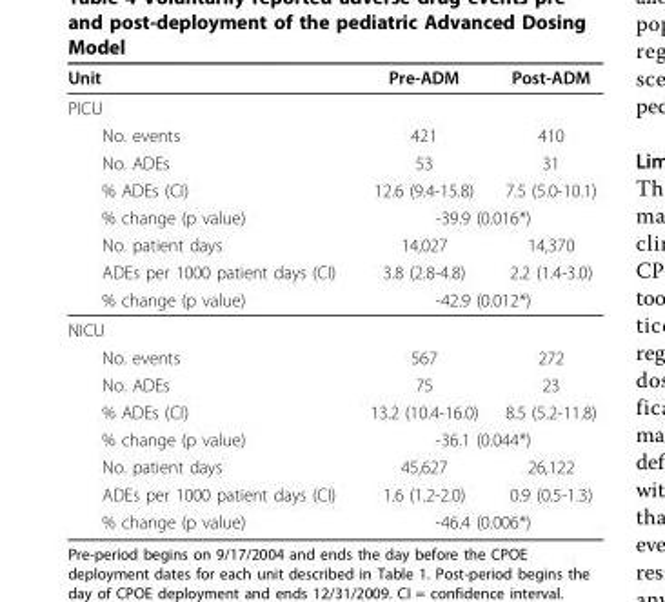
<table><thead><tr><td>Unit</td><td>Pre-ADM</td><td>Post-ADM</td></tr></thead><tbody><tr><td colspan="3">PICU</td></tr><tr><td>No. events</td><td>421</td><td>410</td></tr><tr><td>No. ADEs</td><td>53</td><td>31</td></tr><tr><td>% ADEs (CI)</td><td>12.6 (9.4-15.8)</td><td>7.5 (5.0-10.1)</td></tr><tr><td>% change (p value)</td><td colspan="2">-39.9 (0.016*)</td></tr><tr><td>No. patient days</td><td>14,027</td><td>14,370</td></tr><tr><td>ADEs per 1000 patient days (CI)</td><td>3.8 (2.8-4.8)</td><td>2.2 (1.4-3.0)</td></tr><tr><td>% change (p value)</td><td colspan="2">-42.9 (0.012*)</td></tr><tr><td colspan="3">NICU</td></tr><tr><td>No. events</td><td>567</td><td>272</td></tr><tr><td>No. ADEs</td><td>75</td><td>23</td></tr><tr><td>% ADEs (CI)</td><td>13.2 (10.4-16.0)</td><td>8.5 (5.2-11.8)</td></tr><tr><td>% change (p value)</td><td colspan="2">-36.1 (0.044*)</td></tr><tr><td>No. patient days</td><td>45,627</td><td>26,122</td></tr><tr><td>ADEs per 1000 patient days (CI)</td><td>1.6 (1.2-2.0)</td><td>0.9 (0.5-1.3)</td></tr><tr><td>% change (p value)</td><td colspan="2">-46.4 (0.006*)</td></tr></tbody></table>